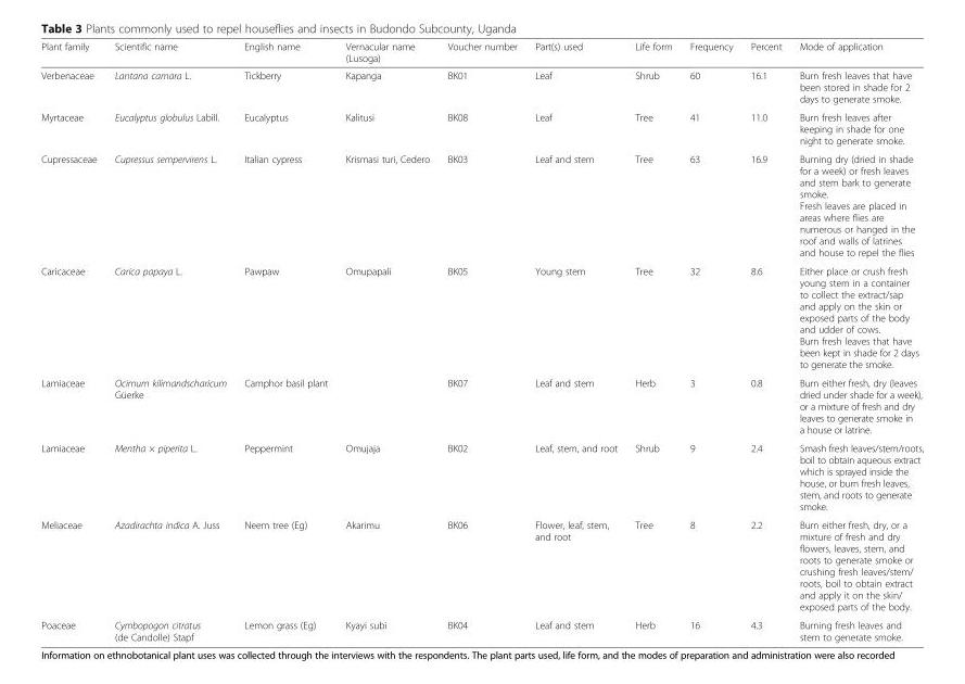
<table><thead><tr><td>Plant family</td><td>Scientific name</td><td>English name</td><td>Vernacular name (Lusoga)</td><td>Voucher number</td><td>Part(s) used</td><td>Life form</td><td>Frequency</td><td>Percent</td><td>Mode of application</td></tr></thead><tbody><tr><td>Verbenaceae</td><td>Lantana camara L.</td><td>Tickberry</td><td>Kapanga</td><td>BK01</td><td>Leaf</td><td>Shrub</td><td>60</td><td>16.1</td><td>Burn fresh leaves that have been stored in shade for 2 days to generate smoke.</td></tr><tr><td>Myrtaceae</td><td>Eucalyptus globulus Labill.</td><td>Eucalyptus</td><td>Kalitusi</td><td>BK08</td><td>Leaf</td><td>Tree</td><td>41</td><td>11.0</td><td>Burn fresh leaves after keeping in shade for one night to generate smoke.</td></tr><tr><td>Cupressaceae</td><td>Cupressus sempervirens L.</td><td>Italian cypress</td><td>Krismasi turi, Cedero</td><td>BK03</td><td>Leaf and stem</td><td>Tree</td><td>63</td><td>16.9</td><td>Burning dry (dried in shade for a week) or fresh leaves and stem bark to generate smoke. Fresh leaves are placed in areas where flies are numerous or hanged in the roof and walls of latrines and house to repel the flies</td></tr><tr><td>Caricaceae</td><td>Carica papaya L.</td><td>Pawpaw</td><td>Omupapali</td><td>BK05</td><td>Young stem</td><td>Tree</td><td>32</td><td>8.6</td><td>Either place or crush fresh young stem in a container to collect the extract/sap and apply on the skin or exposed parts of the body and udder of cows. Burn fresh leaves that have been kept in shade for 2 days to generate the smoke.</td></tr><tr><td>Lamiaceae</td><td>Ocimum kilimandscharicum Güerke</td><td>Camphor basil plant</td><td></td><td>BK07</td><td>Leaf and stem</td><td>Herb</td><td>3</td><td>0.8</td><td>Burn either fresh, dry (leaves dried under shade for a week), or a mixture of fresh and dry leaves to generate smoke in a house or latrine.</td></tr><tr><td>Lamiaceae</td><td>Mentha × piperita L.</td><td>Peppermint</td><td>Omujaja</td><td>BK02</td><td>Leaf, stem, and root</td><td>Shrub</td><td>9</td><td>2.4</td><td>Smash fresh leaves/stem/roots, boil to obtain aqueous extract which is sprayed inside the house, or burn fresh leaves, stem, and roots to generate smoke.</td></tr><tr><td>Meliaceae</td><td>Azadirachta indica A. Juss</td><td>Neem tree (Eg)</td><td>Akarimu</td><td>BK06</td><td>Flower, leaf, stem, and root</td><td>Tree</td><td>8</td><td>2.2</td><td>Burn either fresh, dry, or a mixture of fresh and dry flowers, leaves, stem, and roots to generate smoke or crushing fresh leaves/stem/ roots, boil to obtain extract and apply it on the skin/ exposed parts of the body.</td></tr><tr><td>Poaceae</td><td>Cymbopogon citratus (de Candolle) Stapf</td><td>Lemon grass (Eg)</td><td>Kyayi subi</td><td>BK04</td><td>Leaf and stem</td><td>Herb</td><td>16</td><td>4.3</td><td>Burning fresh leaves and stem to generate smoke.</td></tr></tbody></table>